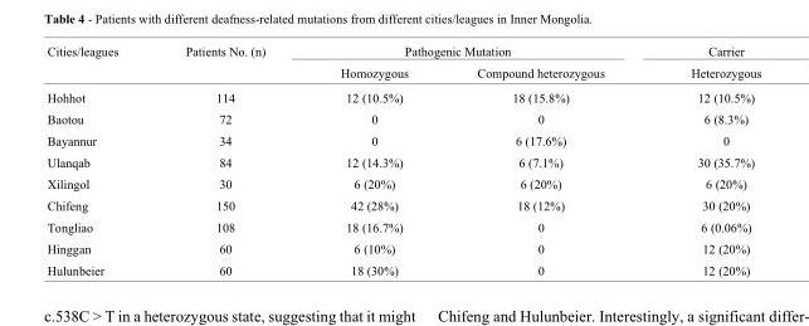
<table><thead><tr><td rowspan="2">Cities/leagues</td><td rowspan="2">Patients No. (n)</td><td colspan="2">Pathogenic Mutation</td><td rowspan="2">Carrier Heterozygous</td></tr><tr><td>Homozygous</td><td>Compound heterozygous</td></tr></thead><tbody><tr><td>Hohhot</td><td>114</td><td>12 (10.5%)</td><td>18 (15.8%)</td><td>12 (10.5%)</td></tr><tr><td>Baotou</td><td>72</td><td>0</td><td>0</td><td>6 (8.3%)</td></tr><tr><td>Bayannur</td><td>34</td><td>0</td><td>6 (17.6%)</td><td>0</td></tr><tr><td>Ulanqab</td><td>84</td><td>12 (14.3%)</td><td>6 (7.1%)</td><td>30 (35.7%)</td></tr><tr><td>Xilingol</td><td>30</td><td>6 (20%)</td><td>6 (20%)</td><td>6 (20%)</td></tr><tr><td>Chifeng</td><td>150</td><td>42 (28%)</td><td>18 (12%)</td><td>30 (20%)</td></tr><tr><td>Tongliao</td><td>108</td><td>18 (16.7%)</td><td>0</td><td>6 (0.06%)</td></tr><tr><td>Hinggan</td><td>60</td><td>6 (10%)</td><td>0</td><td>12 (20%)</td></tr><tr><td>Hulunbeier</td><td>60</td><td>18 (30%)</td><td>0</td><td>12 (20%)</td></tr></tbody></table>